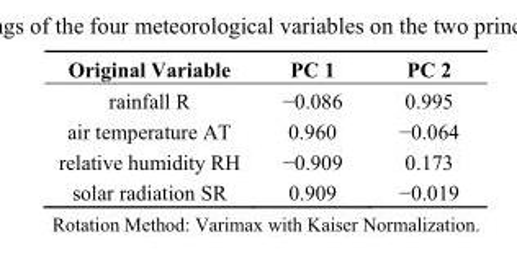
<table><thead><tr><td>Original Variable</td><td>PC 1</td><td>PC 2</td></tr></thead><tbody><tr><td>rainfall R</td><td>−0.086</td><td>0.995</td></tr><tr><td>air temperature AT</td><td>0.960</td><td>−0.064</td></tr><tr><td>relative humidity RH</td><td>−0.909</td><td>0.173</td></tr><tr><td>solar radiation SR</td><td>0.909</td><td>−0.019</td></tr></tbody></table>